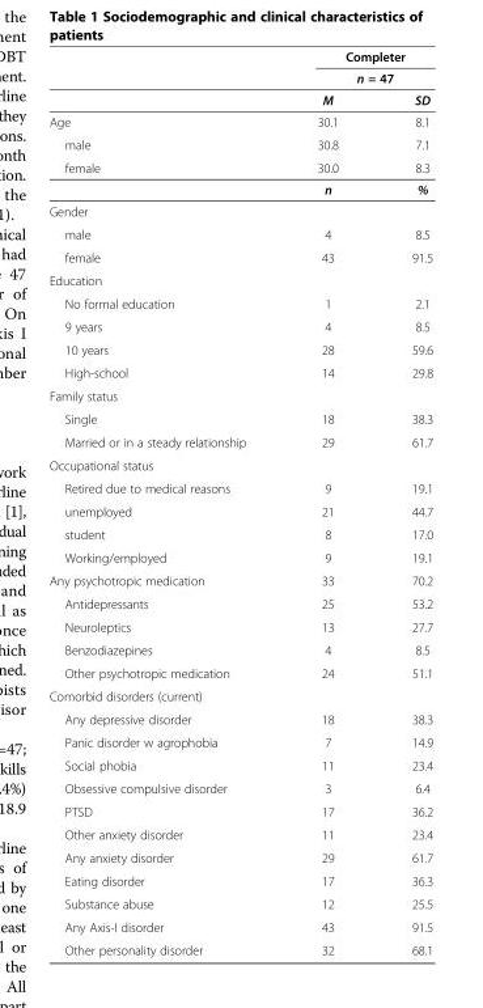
<table><thead><tr><td rowspan="3"></td><td rowspan="2" colspan="2">Completer n = 47</td></tr><tr></tr><tr><td>M</td><td>SD</td></tr></thead><tbody><tr><td>Age</td><td>30.1</td><td>8.1</td></tr><tr><td>male</td><td>30.8</td><td>7.1</td></tr><tr><td rowspan="2">female</td><td>30.0</td><td>8.3</td></tr><tr><td>n</td><td>%</td></tr><tr><td colspan="3">Gender</td></tr><tr><td>male</td><td>4</td><td>8.5</td></tr><tr><td>female</td><td>43</td><td>91.5</td></tr><tr><td colspan="3">Education</td></tr><tr><td>No formal education</td><td>1</td><td>2.1</td></tr><tr><td>9 years</td><td>4</td><td>8.5</td></tr><tr><td>10 years</td><td>28</td><td>59.6</td></tr><tr><td>High-school</td><td>14</td><td>29.8</td></tr><tr><td colspan="3">Family status</td></tr><tr><td>Single</td><td>18</td><td>38.3</td></tr><tr><td>Married or in a steady relationship</td><td>29</td><td>61.7</td></tr><tr><td colspan="3">Occupational status</td></tr><tr><td>Retired due to medical reasons</td><td>9</td><td>19.1</td></tr><tr><td>unemployed</td><td>21</td><td>44.7</td></tr><tr><td>student</td><td>8</td><td>17.0</td></tr><tr><td>Working/employed</td><td>9</td><td>19.1</td></tr><tr><td>Any psychotropic medication</td><td>33</td><td>70.2</td></tr><tr><td>Antidepressants</td><td>25</td><td>53.2</td></tr><tr><td>Neuroleptics</td><td>13</td><td>27.7</td></tr><tr><td>Benzodiazepines</td><td>4</td><td>8.5</td></tr><tr><td>Other psychotropic medication</td><td>24</td><td>51.1</td></tr><tr><td colspan="3">Comorbid disorders (current)</td></tr><tr><td>Any depressive disorder</td><td>18</td><td>38.3</td></tr><tr><td>Panic disorder w agrophobia</td><td>7</td><td>14.9</td></tr><tr><td>Social phobia</td><td>11</td><td>23.4</td></tr><tr><td>Obsessive compulsive disorder</td><td>3</td><td>6.4</td></tr><tr><td>PTSD</td><td>17</td><td>36.2</td></tr><tr><td>Other anxiety disorder</td><td>11</td><td>23.4</td></tr><tr><td>Any anxiety disorder</td><td>29</td><td>61.7</td></tr><tr><td>Eating disorder</td><td>17</td><td>36.3</td></tr><tr><td>Substance abuse</td><td>12</td><td>25.5</td></tr><tr><td>Any Axis-I disorder</td><td>43</td><td>91.5</td></tr><tr><td>Other personality disorder</td><td>32</td><td>68.1</td></tr></tbody></table>